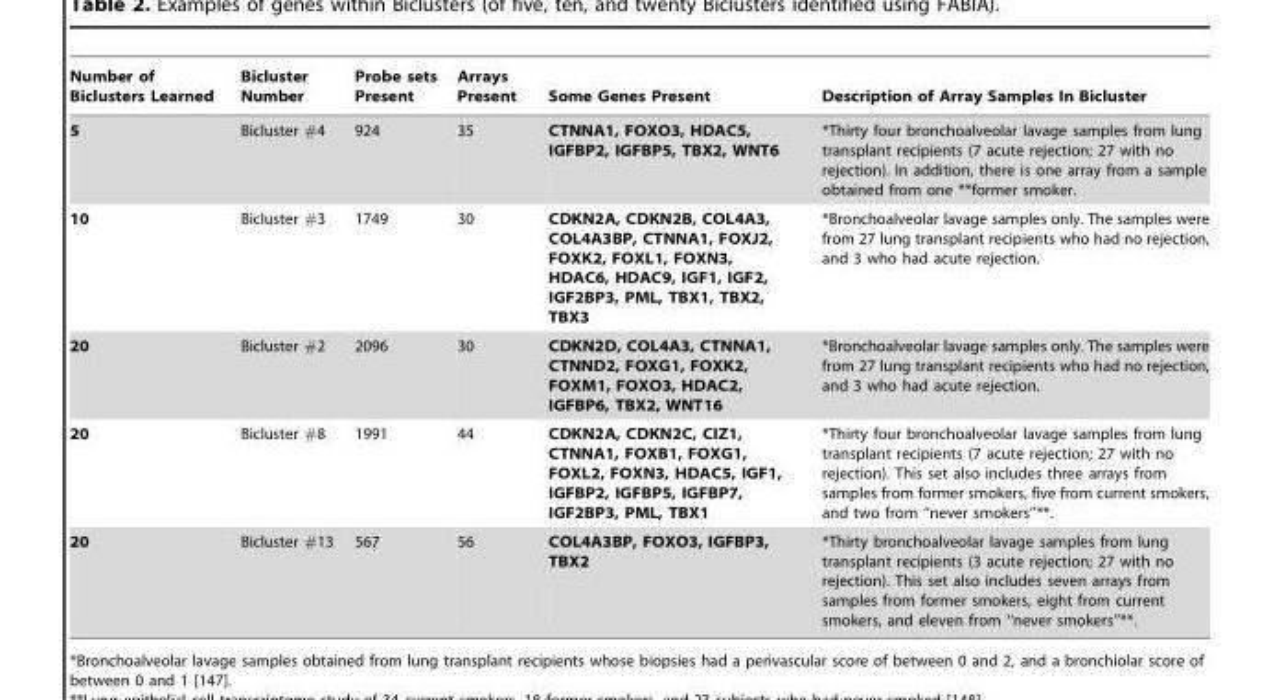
<table><thead><tr><td>Number of Biclusters Learned</td><td>Bicluster Number</td><td>Probe sets Present</td><td>Arrays Present</td><td>Some Genes Present</td><td>Description of Array Samples In Bicluster</td></tr></thead><tbody><tr><td>5</td><td>Bicluster #4</td><td>924</td><td>35</td><td>CTNNA1, FOXO3, HDAC5, IGFBP2, IGFBP5, TBX2, WNT6</td><td>*Thirty four bronchoalveolar lavage samples from lung transplant recipients (7 acute rejection; 27 with no rejection). In addition, there is one array from a sample obtained from one **former smoker.</td></tr><tr><td>10</td><td>Bicluster #3</td><td>1749</td><td>30</td><td>CDKN2A, CDKN2B, COL4A3, COL4A3BP, CTNNA1, FOXJ2, FOXK2, FOXL1, FOXN3, HDAC6, HDAC9, IGF1, IGF2, IGF2BP3, PML, TBX1, TBX2, TBX3</td><td>*Bronchoalveolar lavage samples only. The samples were from 27 lung transplant recipients who had no rejection, and 3 who had acute rejection.</td></tr><tr><td>20</td><td>Bicluster #2</td><td>2096</td><td>30</td><td>CDKN2D, COL4A3, CTNNA1, CTNND2, FOXG1, FOXK2, FOXM1, FOXO3, HDAC2, IGFBP6, TBX2, WNT16</td><td>*Bronchoalveolar lavage samples only. The samples were from 27 lung transplant recipients who had no rejection, and 3 who had acute rejection.</td></tr><tr><td>20</td><td>Bicluster #8</td><td>1991</td><td>44</td><td>CDKN2A, CDKN2C, CIZ1, CTNNA1, FOXB1, FOXG1, FOXL2, FOXN3, HDAC5, IGF1, IGFBP2, IGFBP5, IGFBP7, IGF2BP3, PML, TBX1</td><td>*Thirty four bronchoalveolar lavage samples from lung transplant recipients (7 acute rejection; 27 with no rejection). This set also includes three arrays from samples from former smokers, five from current smokers, and two from ‘‘never smokers’’**.</td></tr><tr><td>20</td><td>Bicluster #13</td><td>567</td><td>56</td><td>COL4A3BP, FOXO3, IGFBP3, TBX2</td><td>*Thirty bronchoalveolar lavage samples from lung transplant recipients (3 acute rejection; 27 with no rejection). This set also includes seven arrays from samples from former smokers, eight from current smokers, and eleven from ‘‘never smokers’’**.</td></tr></tbody></table>